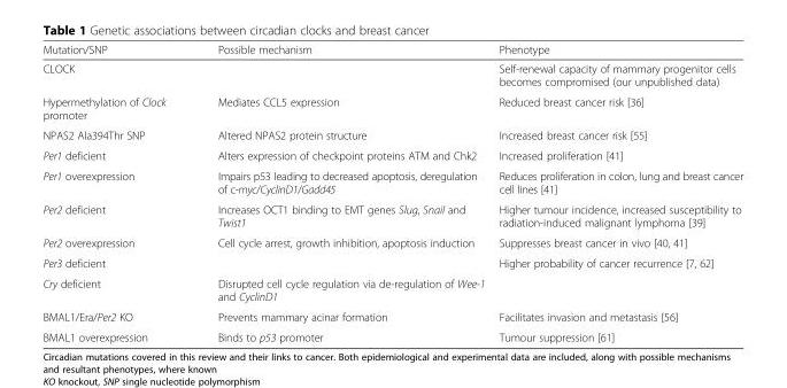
<table><thead><tr><td>Mutation/SNP</td><td>Possible mechanism</td><td>Phenotype</td></tr></thead><tbody><tr><td>CLOCK</td><td></td><td>Self-renewal capacity of mammary progenitor cells becomes compromised (our unpublished data)</td></tr><tr><td>Hypermethylation of Clock promoter</td><td>Mediates CCL5 expression</td><td>Reduced breast cancer risk [36]</td></tr><tr><td>NPAS2 Ala394Thr SNP</td><td>Altered NPAS2 protein structure</td><td>Increased breast cancer risk [55]</td></tr><tr><td>Per1 deficient</td><td>Alters expression of checkpoint proteins ATM and Chk2</td><td>Increased proliferation [41]</td></tr><tr><td>Per1 overexpression</td><td>Impairs p53 leading to decreased apoptosis, deregulation of c-myc/CyclinD1/Gadd45</td><td>Reduces proliferation in colon, lung and breast cancer cell lines [41]</td></tr><tr><td>Per2 deficient</td><td>Increases OCT1 binding to EMT genes Slug, Snail and Twist1</td><td>Higher tumour incidence, increased susceptibility to radiation-induced malignant lymphoma [39]</td></tr><tr><td>Per2 overexpression</td><td>Cell cycle arrest, growth inhibition, apoptosis induction</td><td>Suppresses breast cancer in vivo [40, 41]</td></tr><tr><td>Per3 deficient</td><td></td><td>Higher probability of cancer recurrence [7, 62]</td></tr><tr><td>Cry deficient</td><td>Disrupted cell cycle regulation via de-regulation of Wee-1 and CyclinD1</td><td></td></tr><tr><td>BMAL1/Era/Per2 KO</td><td>Prevents mammary acinar formation</td><td>Facilitates invasion and metastasis [56]</td></tr><tr><td>BMAL1 overexpression</td><td>Binds to p53 promoter</td><td>Tumour suppression [61]</td></tr></tbody></table>